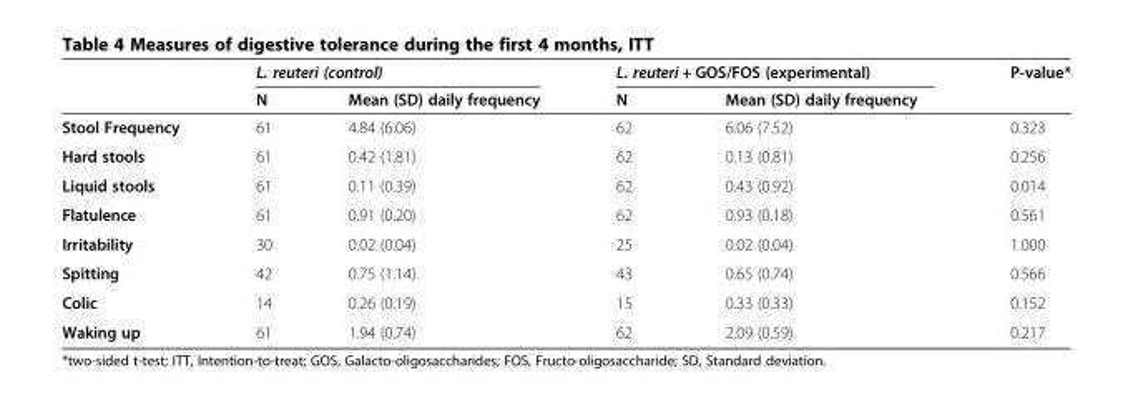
<table><thead><tr><td rowspan="2"></td><td colspan="2">L. reuteri (control)</td><td colspan="2">L. reuteri + GOS/FOS (experimental)</td><td rowspan="2">P-value*</td></tr><tr><td>N</td><td>Mean (SD) daily frequency</td><td>N</td><td>Mean (SD) daily frequency</td></tr></thead><tbody><tr><td>Stool Frequency</td><td>61</td><td>4.84 (6.06)</td><td>62</td><td>6.06 (7.52)</td><td>0.323</td></tr><tr><td>Hard stools</td><td>61</td><td>0.42 (1.81)</td><td>62</td><td>0.13 (0.81)</td><td>0.256</td></tr><tr><td>Liquid stools</td><td>61</td><td>0.11 (0.39)</td><td>62</td><td>0.43 (0.92)</td><td>0.014</td></tr><tr><td>Flatulence</td><td>61</td><td>0.91 (0.20)</td><td>62</td><td>0.93 (0.18)</td><td>0.561</td></tr><tr><td>Irritability</td><td>30</td><td>0.02 (0.04)</td><td>25</td><td>0.02 (0.04)</td><td>1.000</td></tr><tr><td>Spitting</td><td>42</td><td>0.75 (1.14)</td><td>43</td><td>0.65 (0.74)</td><td>0.566</td></tr><tr><td>Colic</td><td>14</td><td>0.26 (0.19)</td><td>15</td><td>0.33 (0.33)</td><td>0.152</td></tr><tr><td>Waking up</td><td>61</td><td>1.94 (0.74)</td><td>62</td><td>2.09 (0.59)</td><td>0.217</td></tr></tbody></table>